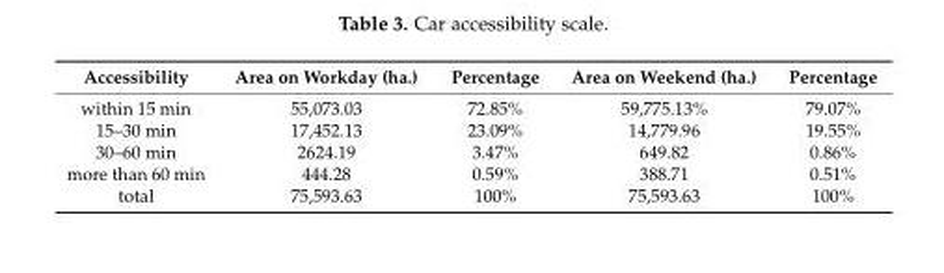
<table><thead><tr><td>Accessibility</td><td>Area on Workday (ha.)</td><td>Percentage</td><td>Area on Weekend (ha.)</td><td>Percentage</td></tr></thead><tbody><tr><td>within 15 min</td><td>55,073.03</td><td>72.85%</td><td>59,775.13%</td><td>79.07%</td></tr><tr><td>15–30 min</td><td>17,452.13</td><td>23.09%</td><td>14,779.96</td><td>19.55%</td></tr><tr><td>30–60 min</td><td>2624.19</td><td>3.47%</td><td>649.82</td><td>0.86%</td></tr><tr><td>more than 60 min</td><td>444.28</td><td>0.59%</td><td>388.71</td><td>0.51%</td></tr><tr><td>total</td><td>75,593.63</td><td>100%</td><td>75,593.63</td><td>100%</td></tr></tbody></table>